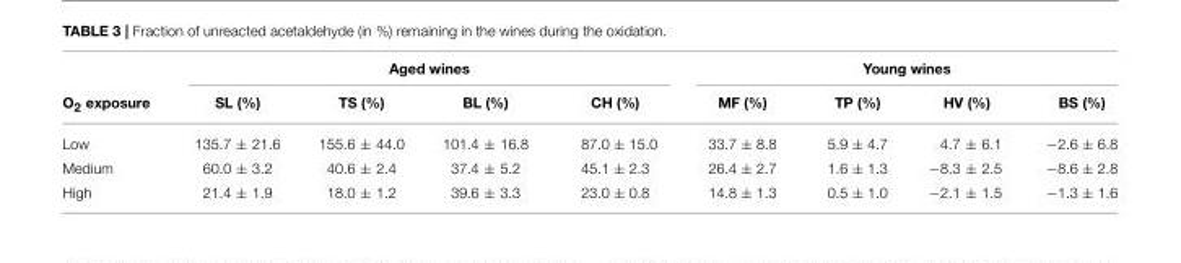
<table><thead><tr><td rowspan="2">O<sub>2</sub> exposure</td><td colspan="4">Aged wines</td><td colspan="4">Young wines</td></tr><tr><td>SL (%)</td><td>TS (%)</td><td>BL (%)</td><td>CH (%)</td><td>MF (%)</td><td>TP (%)</td><td>HV (%)</td><td>BS (%)</td></tr></thead><tbody><tr><td>Low</td><td>135.7 ± 21.6</td><td>155.6 ± 44.0</td><td>101.4 ± 16.8</td><td>87.0 ± 15.0</td><td>33.7 ± 8.8</td><td>5.9 ± 4.7</td><td>4.7 ± 6.1</td><td>−2.6 ± 6.8</td></tr><tr><td>Medium</td><td>60.0 ± 3.2</td><td>40.6 ± 2.4</td><td>37.4 ± 5.2</td><td>45.1 ± 2.3</td><td>26.4 ± 2.7</td><td>1.6 ± 1.3</td><td>−8.3 ± 2.5</td><td>−8.6 ± 2.8</td></tr><tr><td>High</td><td>21.4 ± 1.9</td><td>18.0 ± 1.2</td><td>39.6 ± 3.3</td><td>23.0 ± 0.8</td><td>14.8 ± 1.3</td><td>0.5 ± 1.0</td><td>−2.1 ± 1.5</td><td>−1.3 ± 1.6</td></tr></tbody></table>